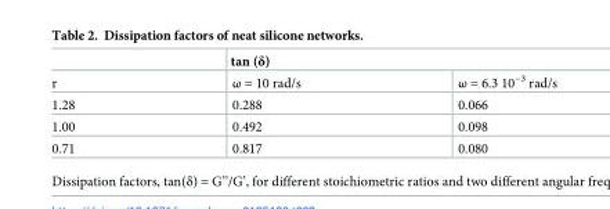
<table><thead><tr><td rowspan="2">r</td><td colspan="2">tan (δ)</td></tr><tr><td>ω = 10 rad/s</td><td>ω = 6.3 10<sup>−3</sup> rad/s</td></tr></thead><tbody><tr><td>1.28</td><td>0.288</td><td>0.066</td></tr><tr><td>1.00</td><td>0.492</td><td>0.098</td></tr><tr><td>0.71</td><td>0.817</td><td>0.080</td></tr></tbody></table>